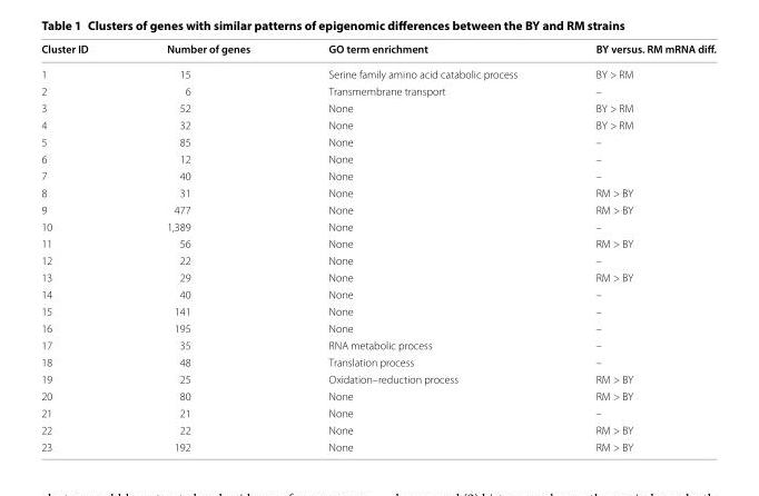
<table><thead><tr><td>Cluster ID</td><td>Number of genes</td><td>GO term enrichment</td><td>BY versus. RM mRNA diff.</td></tr></thead><tbody><tr><td>1</td><td>15</td><td>Serine family amino acid catabolic process</td><td>BY &gt; RM</td></tr><tr><td>2</td><td>6</td><td>Transmembrane transport</td><td>–</td></tr><tr><td>3</td><td>52</td><td>None</td><td>BY &gt; RM</td></tr><tr><td>4</td><td>32</td><td>None</td><td>BY &gt; RM</td></tr><tr><td>5</td><td>85</td><td>None</td><td>–</td></tr><tr><td>6</td><td>12</td><td>None</td><td>–</td></tr><tr><td>7</td><td>40</td><td>None</td><td>–</td></tr><tr><td>8</td><td>31</td><td>None</td><td>RM &gt; BY</td></tr><tr><td>9</td><td>477</td><td>None</td><td>RM &gt; BY</td></tr><tr><td>10</td><td>1,389</td><td>None</td><td>–</td></tr><tr><td>11</td><td>56</td><td>None</td><td>RM &gt; BY</td></tr><tr><td>12</td><td>22</td><td>None</td><td>–</td></tr><tr><td>13</td><td>29</td><td>None</td><td>RM &gt; BY</td></tr><tr><td>14</td><td>40</td><td>None</td><td>–</td></tr><tr><td>15</td><td>141</td><td>None</td><td>–</td></tr><tr><td>16</td><td>195</td><td>None</td><td>–</td></tr><tr><td>17</td><td>35</td><td>RNA metabolic process</td><td>–</td></tr><tr><td>18</td><td>48</td><td>Translation process</td><td>–</td></tr><tr><td>19</td><td>25</td><td>Oxidation–reduction process</td><td>RM &gt; BY</td></tr><tr><td>20</td><td>80</td><td>None</td><td>RM &gt; BY</td></tr><tr><td>21</td><td>21</td><td>None</td><td>–</td></tr><tr><td>22</td><td>22</td><td>None</td><td>RM &gt; BY</td></tr><tr><td>23</td><td>192</td><td>None</td><td>RM &gt; BY</td></tr></tbody></table>